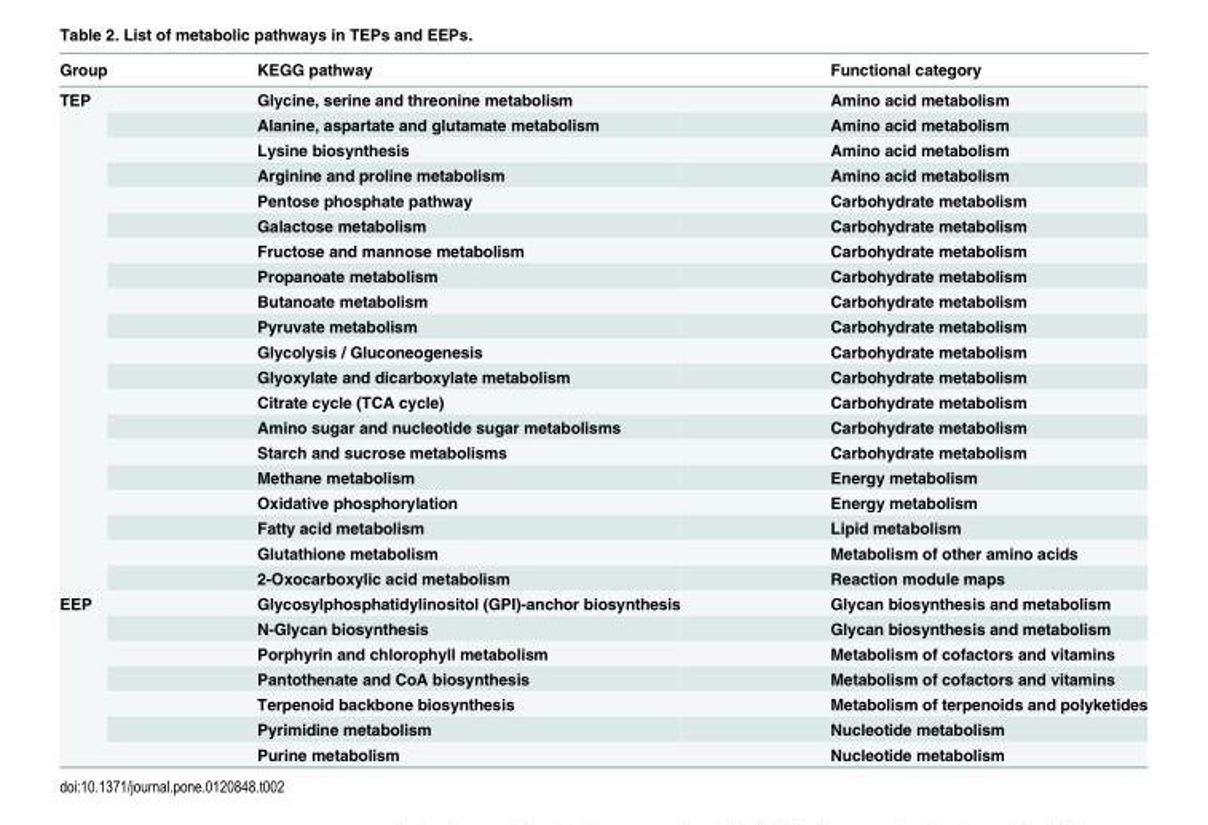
<table><thead><tr><td>Group</td><td>KEGG pathway</td><td>Functional category</td></tr></thead><tbody><tr><td rowspan="20">TEP</td><td>Glycine, serine and threonine metabolism</td><td>Amino acid metabolism</td></tr><tr><td>Alanine, aspartate and glutamate metabolism</td><td>Amino acid metabolism</td></tr><tr><td>Lysine biosynthesis</td><td>Amino acid metabolism</td></tr><tr><td>Arginine and proline metabolism</td><td>Amino acid metabolism</td></tr><tr><td>Pentose phosphate pathway</td><td>Carbohydrate metabolism</td></tr><tr><td>Galactose metabolism</td><td>Carbohydrate metabolism</td></tr><tr><td>Fructose and mannose metabolism</td><td>Carbohydrate metabolism</td></tr><tr><td>Propanoate metabolism</td><td>Carbohydrate metabolism</td></tr><tr><td>Butanoate metabolism</td><td>Carbohydrate metabolism</td></tr><tr><td>Pyruvate metabolism</td><td>Carbohydrate metabolism</td></tr><tr><td>Glycolysis / Gluconeogenesis</td><td>Carbohydrate metabolism</td></tr><tr><td>Glyoxylate and dicarboxylate metabolism</td><td>Carbohydrate metabolism</td></tr><tr><td>Citrate cycle (TCA cycle)</td><td>Carbohydrate metabolism</td></tr><tr><td>Amino sugar and nucleotide sugar metabolisms</td><td>Carbohydrate metabolism</td></tr><tr><td>Starch and sucrose metabolisms</td><td>Carbohydrate metabolism</td></tr><tr><td>Methane metabolism</td><td>Energy metabolism</td></tr><tr><td>Oxidative phosphorylation</td><td>Energy metabolism</td></tr><tr><td>Fatty acid metabolism</td><td>Lipid metabolism</td></tr><tr><td>Glutathione metabolism</td><td>Metabolism of other amino acids</td></tr><tr><td>2-Oxocarboxylic acid metabolism</td><td>Reaction module maps</td></tr><tr><td rowspan="7">EEP</td><td>Glycosylphosphatidylinositol (GPI)-anchor biosynthesis</td><td>Glycan biosynthesis and metabolism</td></tr><tr><td>N-Glycan biosynthesis</td><td>Glycan biosynthesis and metabolism</td></tr><tr><td>Porphyrin and chlorophyll metabolism</td><td>Metabolism of cofactors and vitamins</td></tr><tr><td>Pantothenate and CoA biosynthesis</td><td>Metabolism of cofactors and vitamins</td></tr><tr><td>Terpenoid backbone biosynthesis</td><td>Metabolism of terpenoids and polyketides</td></tr><tr><td>Pyrimidine metabolism</td><td>Nucleotide metabolism</td></tr><tr><td>Purine metabolism</td><td>Nucleotide metabolism</td></tr></tbody></table>